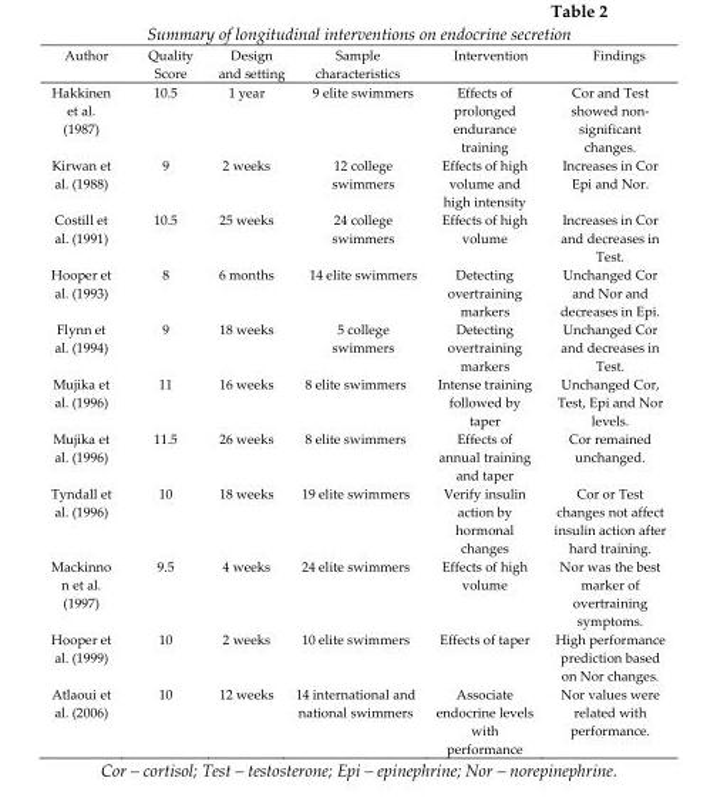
<table><thead><tr><td>Author</td><td>Quality Score</td><td>Design and setting</td><td>Sample characteristics</td><td>Intervention</td><td>Findings</td></tr></thead><tbody><tr><td>Hakkinen et al. (1987)</td><td>10.5</td><td>1 year</td><td>9 elite swimmers</td><td>Effects of prolonged endurance training</td><td>Cor and Test showed non- significant changes.</td></tr><tr><td>Kirwan et al. (1988)</td><td>9</td><td>2 weeks</td><td>12 college swimmers</td><td>Effects of high volume and high intensity</td><td>Increases in Cor Epi and Nor.</td></tr><tr><td>Costill et al. (1991)</td><td>10.5</td><td>25 weeks</td><td>24 college swimmers</td><td>Effects of high volume</td><td>Increases in Cor and decreases in Test.</td></tr><tr><td>Hooper et al. (1993)</td><td>8</td><td>6 months</td><td>14 elite swimmers</td><td>Detecting overtraining markers</td><td>Unchanged Cor and Nor and decreases in Epi.</td></tr><tr><td>Flynn et al. (1994)</td><td>9</td><td>18 weeks</td><td>5 college swimmers</td><td>Detecting overtraining markers</td><td>Unchanged Cor and decreases in Test.</td></tr><tr><td>Mujika et al. (1996)</td><td>11</td><td>16 weeks</td><td>8 elite swimmers</td><td>Intense training followed by taper</td><td>Unchanged Cor, Test, Epi and Nor levels.</td></tr><tr><td>Mujika et al. (1996)</td><td>11.5</td><td>26 weeks</td><td>8 elite swimmers</td><td>Effects of annual training and taper</td><td>Cor remained unchanged.</td></tr><tr><td>Tyndall et al. (1996)</td><td>10</td><td>18 weeks</td><td>19 elite swimmers</td><td>Verify insulin action by hormonal changes</td><td>Cor or Test changes not affect insulin action after hard training.</td></tr><tr><td>Mackinno n et al. (1997)</td><td>9.5</td><td>4 weeks</td><td>24 elite swimmers</td><td>Effects of high volume</td><td>Nor was the best marker of overtraining symptoms.</td></tr><tr><td>Hooper et al. (1999)</td><td>10</td><td>2 weeks</td><td>10 elite swimmers</td><td>Effects of taper</td><td>High performance prediction based on Nor changes.</td></tr><tr><td>Atlaoui et al. (2006)</td><td>10</td><td>12 weeks</td><td>14 international and national swimmers</td><td>Associate endocrine levels with performance</td><td>Nor values were related with performance.</td></tr></tbody></table>